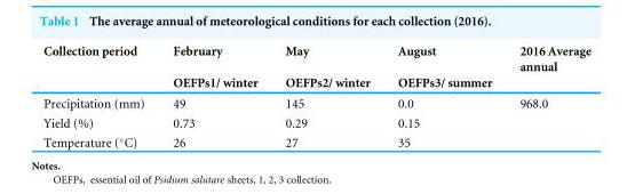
<table><thead><tr><td rowspan="2">Collection period</td><td rowspan="2">February OEFPs1/ winter</td><td rowspan="2">May OEFPs2/ winter</td><td rowspan="2">August OEFPs3/ summer</td><td rowspan="2">2016 Average annual</td></tr><tr></tr></thead><tbody><tr><td>Precipitation (mm)</td><td>49</td><td>145</td><td>0.0</td><td>968.0</td></tr><tr><td>Yield (%)</td><td>0.73</td><td>0.29</td><td>0.15</td><td></td></tr><tr><td>Temperature (◦C)</td><td>26</td><td>27</td><td>35</td><td></td></tr></tbody></table>